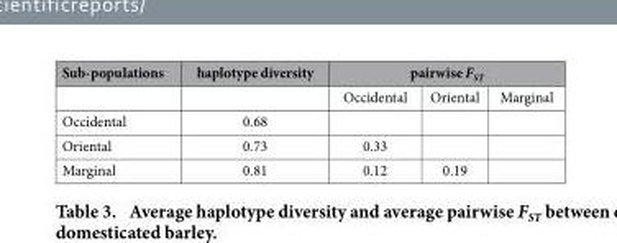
<table><thead><tr><td rowspan="2">Sub-populations</td><td rowspan="2">haplotype diversity</td><td colspan="3">pairwise F<sub>ST</sub></td></tr><tr><td>Occidental</td><td>Oriental</td><td>Marginal</td></tr></thead><tbody><tr><td>Occidental</td><td>0.68</td><td></td><td></td><td></td></tr><tr><td>Oriental</td><td>0.73</td><td>0.33</td><td></td><td></td></tr><tr><td>Marginal</td><td>0.81</td><td>0.12</td><td>0.19</td><td></td></tr></tbody></table>